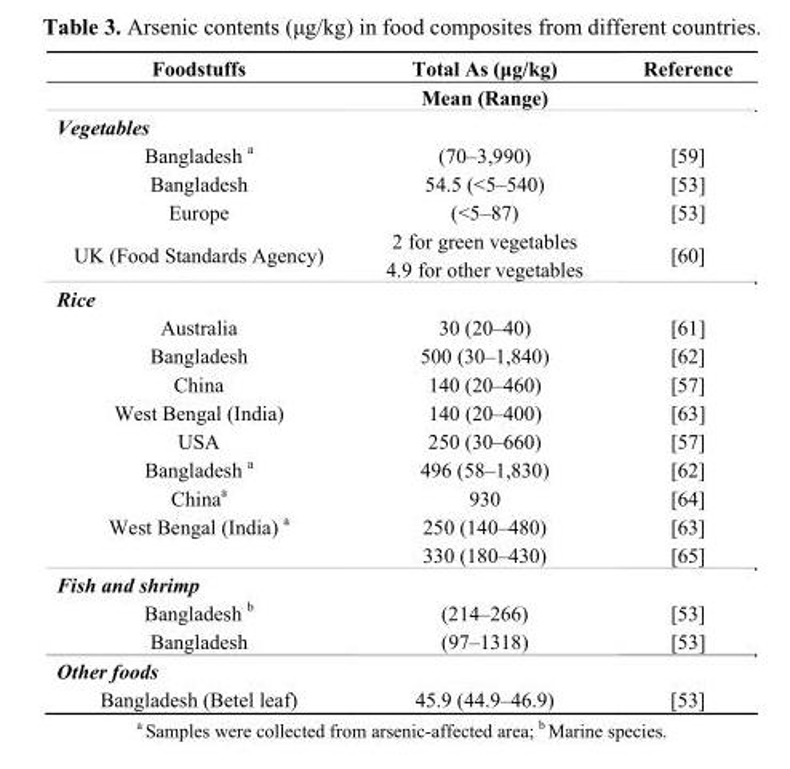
<table><thead><tr><td>Foodstuffs</td><td>Total As (μg/kg)</td><td>Reference</td></tr></thead><tbody><tr><td></td><td>Mean (Range)</td><td></td></tr><tr><td colspan="3">Vegetables</td></tr><tr><td>Bangladesh <sup>a</sup></td><td>(70–3,990)</td><td>[59]</td></tr><tr><td>Bangladesh</td><td>54.5 (&lt;5–540)</td><td>[53]</td></tr><tr><td>Europe</td><td>(&lt;5–87)</td><td>[53]</td></tr><tr><td rowspan="2">UK (Food Standards Agency)</td><td>2 for green vegetables</td><td rowspan="2">[60]</td></tr><tr><td>4.9 for other vegetables</td></tr><tr><td colspan="3">Rice</td></tr><tr><td>Australia</td><td>30 (20–40)</td><td>[61]</td></tr><tr><td>Bangladesh</td><td>500 (30–1,840)</td><td>[62]</td></tr><tr><td>China</td><td>140 (20–460)</td><td>[57]</td></tr><tr><td>West Bengal (India)</td><td>140 (20–400)</td><td>[63]</td></tr><tr><td>USA</td><td>250 (30–660)</td><td>[57]</td></tr><tr><td>Bangladesh <sup>a</sup></td><td>496 (58–1,830)</td><td>[62]</td></tr><tr><td>China<sup>a</sup></td><td>930</td><td>[64]</td></tr><tr><td rowspan="2">West Bengal (India) <sup>a</sup></td><td>250 (140–480)</td><td>[63]</td></tr><tr><td>330 (180–430)</td><td>[65]</td></tr><tr><td colspan="3">Fish and shrimp</td></tr><tr><td>Bangladesh <sup>b</sup></td><td>(214–266)</td><td>[53]</td></tr><tr><td>Bangladesh</td><td>(97–1318)</td><td>[53]</td></tr><tr><td colspan="3">Other foods</td></tr><tr><td>Bangladesh (Betel leaf)</td><td>45.9 (44.9–46.9)</td><td>[53]</td></tr></tbody></table>